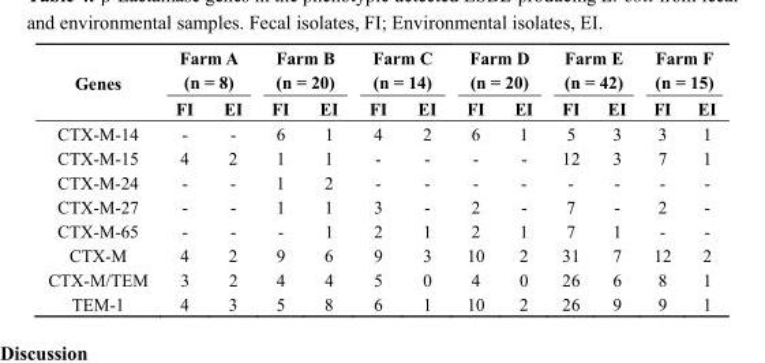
<table><thead><tr><td rowspan="3">Genes</td><td rowspan="2" colspan="2">Farm A (n = 8)</td><td rowspan="2" colspan="2">Farm B (n = 20)</td><td rowspan="2" colspan="2">Farm C (n = 14)</td><td rowspan="2" colspan="2">Farm D (n = 20)</td><td rowspan="2" colspan="2">Farm E (n = 42)</td><td rowspan="2" colspan="2">Farm F (n = 15)</td></tr><tr></tr><tr><td>FI</td><td>EI</td><td>FI</td><td>EI</td><td>FI</td><td>EI</td><td>FI</td><td>EI</td><td>FI</td><td>EI</td><td>FI</td><td>EI</td></tr></thead><tbody><tr><td>CTX-M-14</td><td>-</td><td>-</td><td>6</td><td>1</td><td>4</td><td>2</td><td>6</td><td>1</td><td>5</td><td>3</td><td>3</td><td>1</td></tr><tr><td>CTX-M-15</td><td>4</td><td>2</td><td>1</td><td>1</td><td>-</td><td>-</td><td>-</td><td>-</td><td>12</td><td>3</td><td>7</td><td>1</td></tr><tr><td>CTX-M-24</td><td>-</td><td>-</td><td>1</td><td>2</td><td>-</td><td>-</td><td>-</td><td>-</td><td>-</td><td>-</td><td>-</td><td>-</td></tr><tr><td>CTX-M-27</td><td>-</td><td>-</td><td>1</td><td>1</td><td>3</td><td>-</td><td>2</td><td>-</td><td>7</td><td>-</td><td>2</td><td>-</td></tr><tr><td>CTX-M-65</td><td>-</td><td>-</td><td>-</td><td>1</td><td>2</td><td>1</td><td>2</td><td>1</td><td>7</td><td>1</td><td>-</td><td>-</td></tr><tr><td>CTX-M</td><td>4</td><td>2</td><td>9</td><td>6</td><td>9</td><td>3</td><td>10</td><td>2</td><td>31</td><td>7</td><td>12</td><td>2</td></tr><tr><td>CTX-M/TEM</td><td>3</td><td>2</td><td>4</td><td>4</td><td>5</td><td>0</td><td>4</td><td>0</td><td>26</td><td>6</td><td>8</td><td>1</td></tr><tr><td>TEM-1</td><td>4</td><td>3</td><td>5</td><td>8</td><td>6</td><td>1</td><td>10</td><td>2</td><td>26</td><td>9</td><td>9</td><td>1</td></tr></tbody></table>